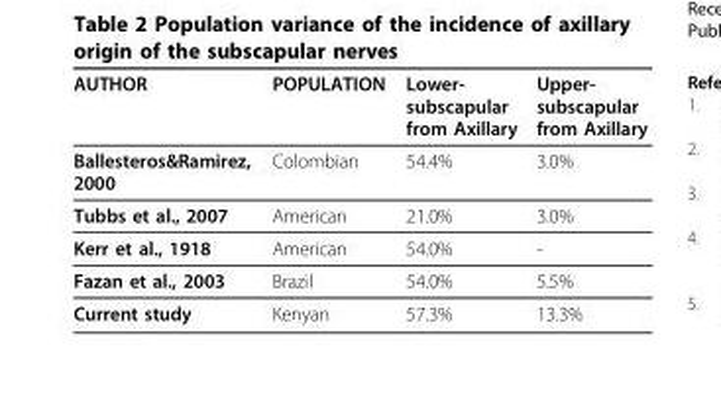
<table><thead><tr><td>AUTHOR</td><td>POPULATION</td><td>Lower- subscapular from Axillary</td><td>Upper- subscapular from Axillary</td></tr></thead><tbody><tr><td>Ballesteros&amp;Ramirez, 2000</td><td>Colombian</td><td>54.4%</td><td>3.0%</td></tr><tr><td>Tubbs et al., 2007</td><td>American</td><td>21.0%</td><td>3.0%</td></tr><tr><td>Kerr et al., 1918</td><td>American</td><td>54.0%</td><td>-</td></tr><tr><td>Fazan et al., 2003</td><td>Brazil</td><td>54.0%</td><td>5.5%</td></tr><tr><td>Current study</td><td>Kenyan</td><td>57.3%</td><td>13.3%</td></tr></tbody></table>